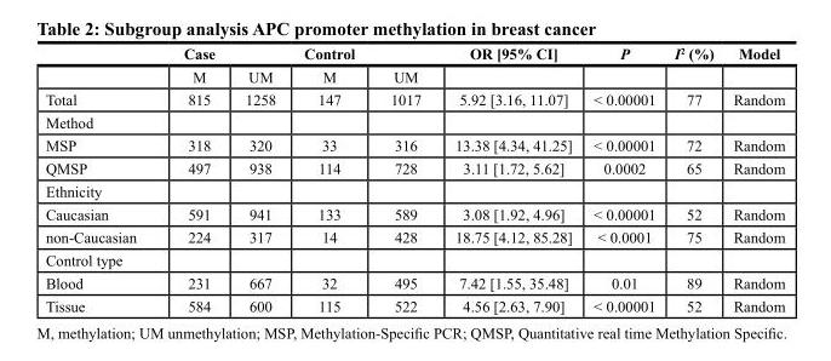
<table><thead><tr><td></td><td>Case</td><td></td><td>Control</td><td></td><td>or [95% CI]</td><td>P</td><td>I<sup>2</sup> (%)</td><td>Model</td></tr></thead><tbody><tr><td></td><td>M</td><td>UM</td><td>M</td><td>UM</td><td></td><td></td><td></td><td></td></tr><tr><td>Total</td><td>815</td><td>1258</td><td>147</td><td>1017</td><td>5.92 [3.16, 11.07]</td><td>&lt; 0.00001</td><td>77</td><td>Random</td></tr><tr><td colspan="9">Method</td></tr><tr><td>MSP</td><td>318</td><td>320</td><td>33</td><td>316</td><td>13.38 [4.34, 41.25]</td><td>&lt; 0.00001</td><td>72</td><td>Random</td></tr><tr><td>QMSP</td><td>497</td><td>938</td><td>114</td><td>728</td><td>3.11 [1.72, 5.62]</td><td>0.0002</td><td>65</td><td>Random</td></tr><tr><td colspan="9">Ethnicity</td></tr><tr><td>Caucasian</td><td>591</td><td>941</td><td>133</td><td>589</td><td>3.08 [1.92, 4.96]</td><td>&lt; 0.00001</td><td>52</td><td>Random</td></tr><tr><td>non-Caucasian</td><td>224</td><td>317</td><td>14</td><td>428</td><td>18.75 [4.12, 85.28]</td><td>&lt; 0.0001</td><td>75</td><td>Random</td></tr><tr><td colspan="9">Control type</td></tr><tr><td>Blood</td><td>231</td><td>667</td><td>32</td><td>495</td><td>7.42 [1.55, 35.48]</td><td>0.01</td><td>89</td><td>Random</td></tr><tr><td>Tissue</td><td>584</td><td>600</td><td>115</td><td>522</td><td>4.56 [2.63, 7.90]</td><td>&lt; 0.00001</td><td>52</td><td>Random</td></tr></tbody></table>